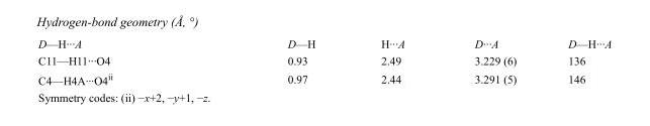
<table><tbody><tr><td>D—H···A</td><td>D—H</td><td>H···A</td><td>D···A</td><td>D—H···A</td></tr><tr><td>C11—H11···O4</td><td>0.93</td><td>2.49</td><td>3.229 (6)</td><td>136</td></tr><tr><td>C4—H4A···O4<sup>ii</sup></td><td>0.97</td><td>2.44</td><td>3.291 (5)</td><td>146</td></tr></tbody></table>